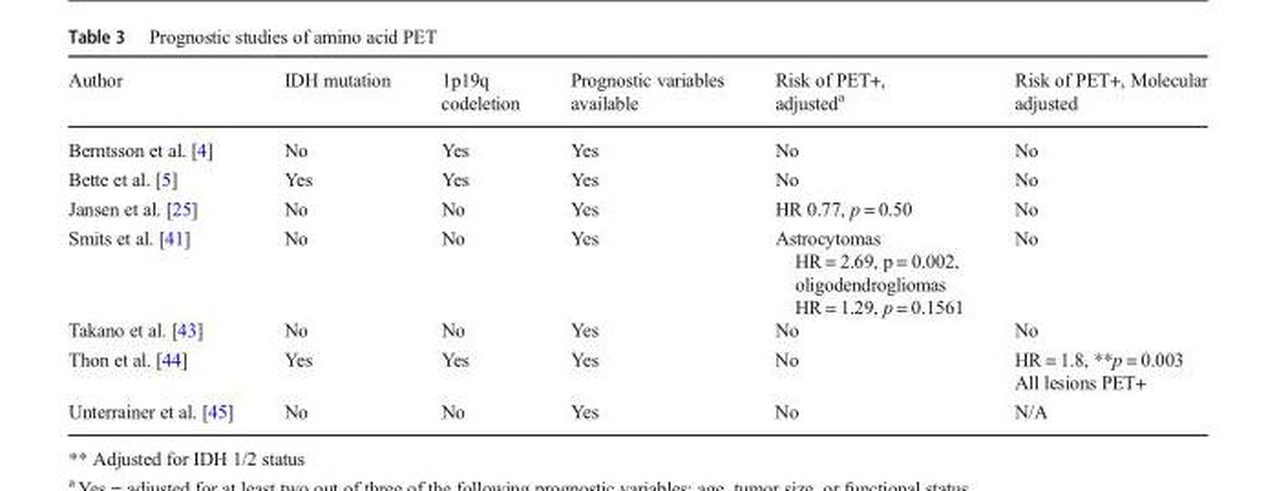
<table><thead><tr><td>Author</td><td>IDH mutation</td><td>1p19q codeletion</td><td>Prognostic variables available</td><td>Risk of PET+, adjusted<sup>a</sup></td><td>Risk of PET+, Molecular adjusted</td></tr></thead><tbody><tr><td>Berntsson et al. [4]</td><td>No</td><td>Yes</td><td>Yes</td><td>No</td><td>No</td></tr><tr><td>Bette et al. [5]</td><td>Yes</td><td>Yes</td><td>Yes</td><td>No</td><td>No</td></tr><tr><td>Jansen et al. [25]</td><td>No</td><td>No</td><td>Yes</td><td>HR 0.77, p = 0.50</td><td>No</td></tr><tr><td>Smits et al. [41]</td><td>No</td><td>No</td><td>Yes</td><td>Astrocytomas HR = 2.69, p = 0.002, oligodendrogliomas HR = 1.29, p = 0.1561</td><td>No</td></tr><tr><td>Takano et al. [43]</td><td>No</td><td>No</td><td>Yes</td><td>No</td><td>No</td></tr><tr><td>Thon et al. [44]</td><td>Yes</td><td>Yes</td><td>Yes</td><td>No</td><td>HR = 1.8, **p = 0.003 All lesions PET+</td></tr><tr><td>Unterrainer et al. [45]</td><td>No</td><td>No</td><td>Yes</td><td>No</td><td>N/A</td></tr></tbody></table>